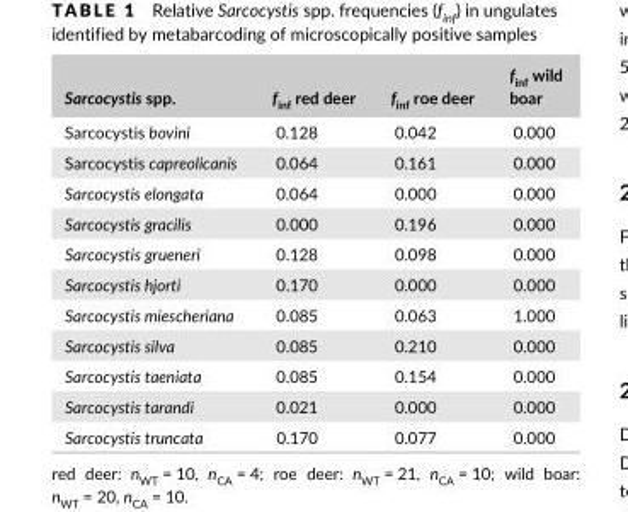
<table><thead><tr><td>Sarcocystis spp.</td><td>f<sub>inf</sub> red deer</td><td>f<sub>inf</sub> roe deer</td><td>f<sub>inf</sub> wild boar</td></tr></thead><tbody><tr><td>Sarcocystis bovini</td><td>0.128</td><td>0.042</td><td>0.000</td></tr><tr><td>Sarcocystis capreolicanis</td><td>0.064</td><td>0.161</td><td>0.000</td></tr><tr><td>Sarcocystis elongata</td><td>0.064</td><td>0.000</td><td>0.000</td></tr><tr><td>Sarcocystis gracilis</td><td>0.000</td><td>0.196</td><td>0.000</td></tr><tr><td>Sarcocystis grueneri</td><td>0.128</td><td>0.098</td><td>0.000</td></tr><tr><td>Sarcocystis hjorti</td><td>0.170</td><td>0.000</td><td>0.000</td></tr><tr><td>Sarcocystis miescheriana</td><td>0.085</td><td>0.063</td><td>1.000</td></tr><tr><td>Sarcocystis silva</td><td>0.085</td><td>0.210</td><td>0.000</td></tr><tr><td>Sarcocystis taeniata</td><td>0.085</td><td>0.154</td><td>0.000</td></tr><tr><td>Sarcocystis tarandi</td><td>0.021</td><td>0.000</td><td>0.000</td></tr><tr><td>Sarcocystis truncata</td><td>0.170</td><td>0.077</td><td>0.000</td></tr></tbody></table>